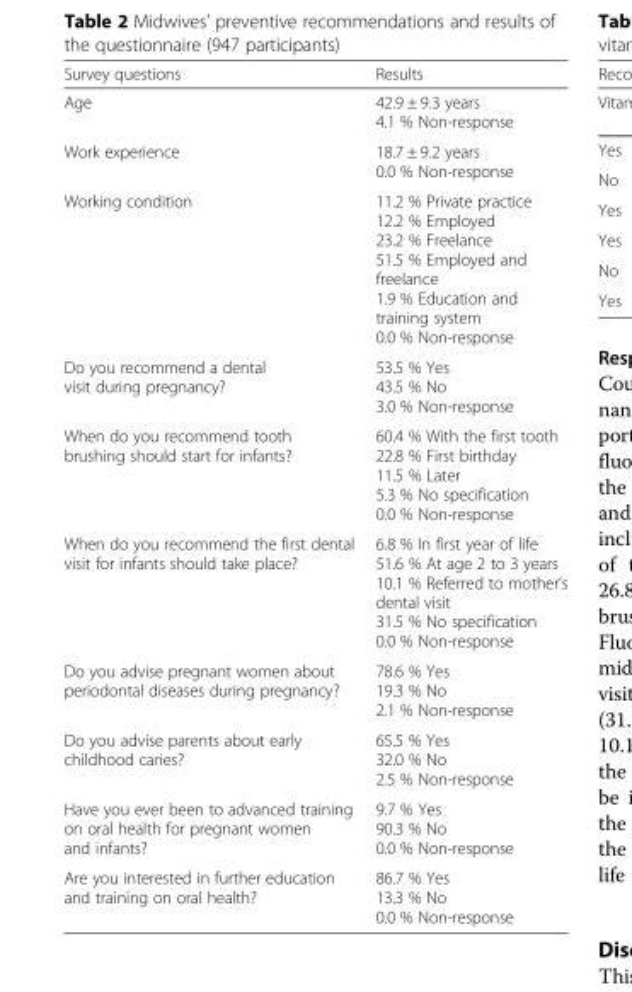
<table><thead><tr><td>Survey questions</td><td>Results</td></tr></thead><tbody><tr><td>Age</td><td>42.9 ± 9.3 years 4.1 % Non-response</td></tr><tr><td>Work experience</td><td>18.7 ± 9.2 years 0.0 % Non-response</td></tr><tr><td>Working condition</td><td>11.2 % Private practice 12.2 % Employed 23.2 % Freelance 51.5 % Employed and freelance 1.9 % Education and training system 0.0 % Non-response</td></tr><tr><td>Do you recommend a dental visit during pregnancy?</td><td>53.5 % Yes 43.5 % No 3.0 % Non-response</td></tr><tr><td>When do you recommend tooth brushing should start for infants?</td><td>60.4 % With the first tooth 22.8 % First birthday 11.5 % Later 5.3 % No specification 0.0 % Non-response</td></tr><tr><td>When do you recommend the first dental visit for infants should take place?</td><td>6.8 % In first year of life 51.6 % At age 2 to 3 years 10.1 % Referred to mother’s dental visit 31.5 % No specification 0.0 % Non-response</td></tr><tr><td>Do you advise pregnant women about periodontal diseases during pregnancy?</td><td>78.6 % Yes 19.3 % No 2.1 % Non-response</td></tr><tr><td>Do you advise parents about early childhood caries?</td><td>65.5 % Yes 32.0 % No 2.5 % Non-response</td></tr><tr><td>Have you ever been to advanced training on oral health for pregnant women and infants?</td><td>9.7 % Yes 90.3 % No 0.0 % Non-response</td></tr><tr><td>Are you interested in further education and training on oral health?</td><td>86.7 % Yes 13.3 % No 0.0 % Non-response</td></tr></tbody></table>